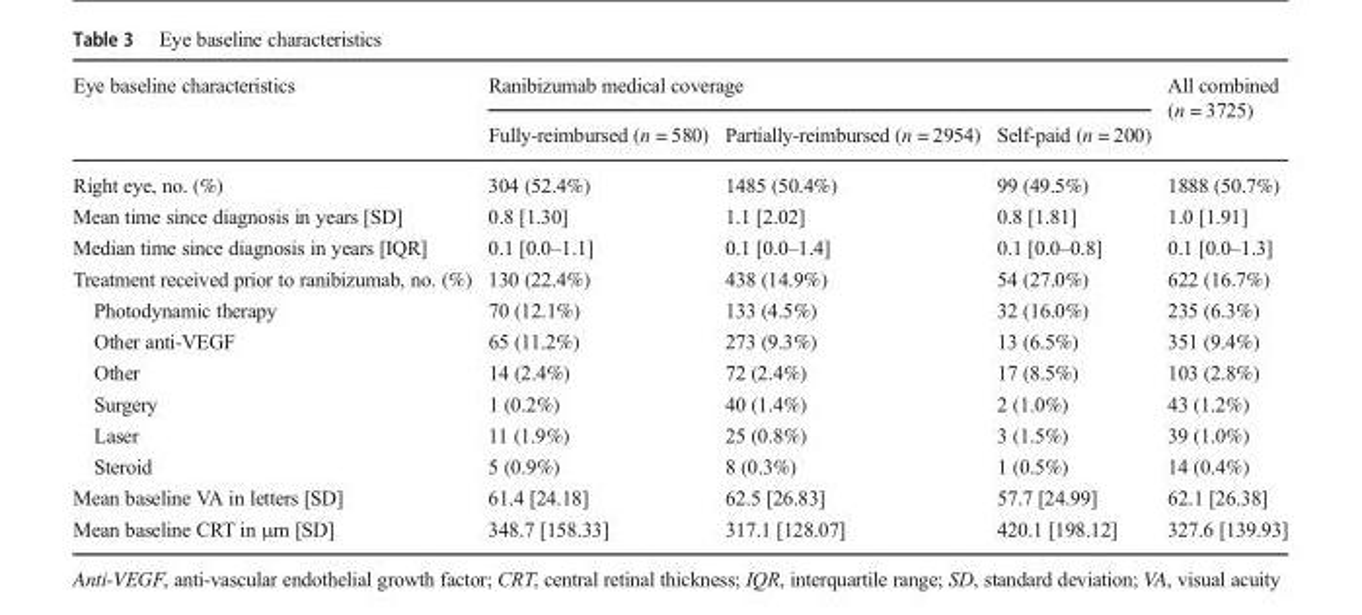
<table><thead><tr><td rowspan="2">Eye baseline characteristics</td><td colspan="3">Ranibizumab medical coverage</td><td rowspan="2">All combined (n = 3725)</td></tr><tr><td>Fully-reimbursed (n = 580)</td><td>Partially-reimbursed (n = 2954)</td><td>Self-paid (n = 200)</td></tr></thead><tbody><tr><td>Right eye, no. (%)</td><td>304 (52.4%)</td><td>1485 (50.4%)</td><td>99 (49.5%)</td><td>1888 (50.7%)</td></tr><tr><td>Mean time since diagnosis in years [SD]</td><td>0.8 [1.30]</td><td>1.1 [2.02]</td><td>0.8 [1.81]</td><td>1.0 [1.91]</td></tr><tr><td>Median time since diagnosis in years [IQR]</td><td>0.1 [0.0–1.1]</td><td>0.1 [0.0–1.4]</td><td>0.1 [0.0–0.8]</td><td>0.1 [0.0–1.3]</td></tr><tr><td>Treatment received prior to ranibizumab, no. (%)</td><td>130 (22.4%)</td><td>438 (14.9%)</td><td>54 (27.0%)</td><td>622 (16.7%)</td></tr><tr><td>Photodynamic therapy</td><td>70 (12.1%)</td><td>133 (4.5%)</td><td>32 (16.0%)</td><td>235 (6.3%)</td></tr><tr><td>Other anti-VEGF</td><td>65 (11.2%)</td><td>273 (9.3%)</td><td>13 (6.5%)</td><td>351 (9.4%)</td></tr><tr><td>Other</td><td>14 (2.4%)</td><td>72 (2.4%)</td><td>17 (8.5%)</td><td>103 (2.8%)</td></tr><tr><td>Surgery</td><td>1 (0.2%)</td><td>40 (1.4%)</td><td>2 (1.0%)</td><td>43 (1.2%)</td></tr><tr><td>Laser</td><td>11 (1.9%)</td><td>25 (0.8%)</td><td>3 (1.5%)</td><td>39 (1.0%)</td></tr><tr><td>Steroid</td><td>5 (0.9%)</td><td>8 (0.3%)</td><td>1 (0.5%)</td><td>14 (0.4%)</td></tr><tr><td>Mean baseline VA in letters [SD]</td><td>61.4 [24.18]</td><td>62.5 [26.83]</td><td>57.7 [24.99]</td><td>62.1 [26.38]</td></tr><tr><td>Mean baseline CRT in μm [SD]</td><td>348.7 [158.33]</td><td>317.1 [128.07]</td><td>420.1 [198.12]</td><td>327.6 [139.93]</td></tr></tbody></table>